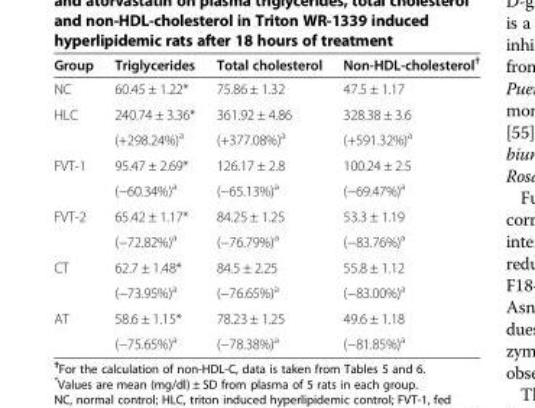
<table><thead><tr><td>Group</td><td>Triglycerides</td><td>Total cholesterol</td><td>Non-HDL-cholesterol<sup>†</sup></td></tr></thead><tbody><tr><td>NC</td><td>60.45 ± 1.22*</td><td>75.86 ± 1.32</td><td>47.5 ± 1.17</td></tr><tr><td rowspan="2">HLC</td><td>240.74 ± 3.36*</td><td>361.92 ± 4.86</td><td>328.38 ± 3.6</td></tr><tr><td>(+298.24%)<sup>a</sup></td><td>(+377.08%)<sup>a</sup></td><td>(+591.32%)<sup>a</sup></td></tr><tr><td rowspan="2">FVT-1</td><td>95.47 ± 2.69*</td><td>126.17 ± 2.8</td><td>100.24 ± 2.5</td></tr><tr><td>(−60.34%)<sup>a</sup></td><td>(−65.13%)<sup>a</sup></td><td>(−69.47%)<sup>a</sup></td></tr><tr><td rowspan="2">FVT-2</td><td>65.42 ± 1.17*</td><td>84.25 ± 1.25</td><td>53.3 ± 1.19</td></tr><tr><td>(−72.82%)<sup>a</sup></td><td>(−76.79%)<sup>a</sup></td><td>(−83.76%)<sup>a</sup></td></tr><tr><td rowspan="2">CT</td><td>62.7 ± 1.48*</td><td>84.5 ± 2.25</td><td>55.8 ± 1.12</td></tr><tr><td>(−73.95%)<sup>a</sup></td><td>(−76.65%)<sup>a</sup></td><td>(−83.00%)<sup>a</sup></td></tr><tr><td rowspan="2">AT</td><td>58.6 ± 1.15*</td><td>78.23 ± 1.25</td><td>49.6 ± 1.18</td></tr><tr><td>(−75.65%)<sup>a</sup></td><td>(−78.38%)<sup>a</sup></td><td>(−81.85%)<sup>a</sup></td></tr></tbody></table>